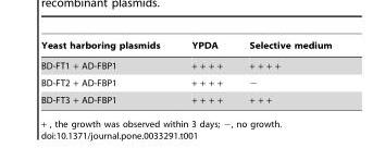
<table><thead><tr><td>Yeast harboring plasmids</td><td>YPDA</td><td>Selective medium</td></tr></thead><tbody><tr><td>BD-FT1 + AD-FBP1</td><td>+ + + +</td><td>+ + + +</td></tr><tr><td>BD-FT2 + AD-FBP1</td><td>+ + + +</td><td>−</td></tr><tr><td>BD-FT3 + AD-FBP1</td><td>+ + + +</td><td>+ + +</td></tr></tbody></table>